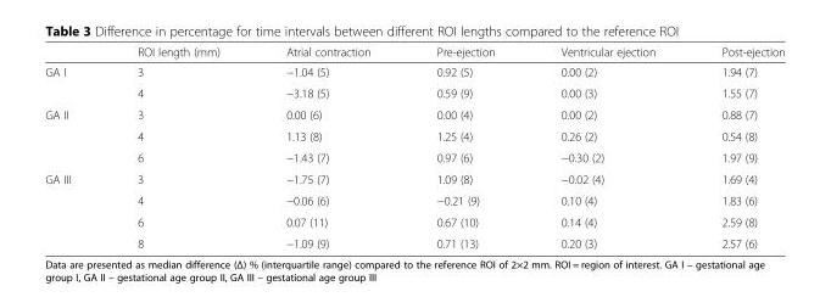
<table><thead><tr><td></td><td>ROI length (mm)</td><td>Atrial contraction</td><td>Pre-ejection</td><td>Ventricular ejection</td><td>Post-ejection</td></tr></thead><tbody><tr><td rowspan="2">GA I</td><td>3</td><td>−1.04 (5)</td><td>0.92 (5)</td><td>0.00 (2)</td><td>1.94 (7)</td></tr><tr><td>4</td><td>−3.18 (5)</td><td>0.59 (9)</td><td>0.00 (3)</td><td>1.55 (7)</td></tr><tr><td rowspan="3">GA II</td><td>3</td><td>0.00 (6)</td><td>0.00 (4)</td><td>0.00 (2)</td><td>0.88 (7)</td></tr><tr><td>4</td><td>1.13 (8)</td><td>1.25 (4)</td><td>0.26 (2)</td><td>0.54 (8)</td></tr><tr><td>6</td><td>−1.43 (7)</td><td>0.97 (6)</td><td>−0.30 (2)</td><td>1.97 (9)</td></tr><tr><td rowspan="4">GA III</td><td>3</td><td>−1.75 (7)</td><td>1.09 (8)</td><td>−0.02 (4)</td><td>1.69 (4)</td></tr><tr><td>4</td><td>−0.06 (6)</td><td>−0.21 (9)</td><td>0.10 (4)</td><td>1.83 (6)</td></tr><tr><td>6</td><td>0.07 (11)</td><td>0.67 (10)</td><td>0.14 (4)</td><td>2.59 (8)</td></tr><tr><td>8</td><td>−1.09 (9)</td><td>0.71 (13)</td><td>0.20 (3)</td><td>2.57 (6)</td></tr></tbody></table>